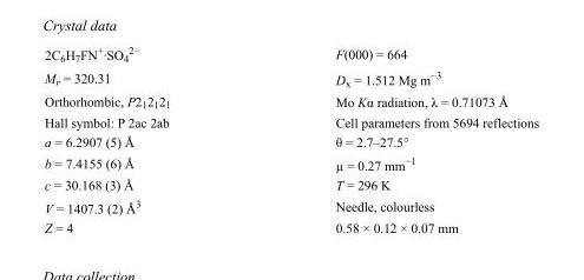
<table><tbody><tr><td>2C<sub>6</sub>H<sub>7</sub>FN<sup>+</sup>·SO<sub>4</sub> <sup>2−</sup></td><td>F(000) = 664</td></tr><tr><td>M<sub>r</sub> = 320.31</td><td>D<sub>x</sub> = 1.512 Mg m<sup>−3</sup></td></tr><tr><td>Orthorhombic, P2<sub>1</sub>2<sub>1</sub>2<sub>1</sub></td><td>Mo Kα radiation, λ = 0.71073 Å</td></tr><tr><td>Hall symbol: P 2ac 2ab</td><td>Cell parameters from 5694 reflections</td></tr><tr><td>a = 6.2907 (5) Å</td><td>θ = 2.7–27.5°</td></tr><tr><td>b = 7.4155 (6) Å</td><td>µ = 0.27 mm<sup>−1</sup></td></tr><tr><td>c = 30.168 (3) Å</td><td>T = 296 K</td></tr><tr><td>V = 1407.3 (2) Å<sup>3</sup></td><td>Needle, colourless</td></tr><tr><td>Z = 4</td><td>0.58 × 0.12 × 0.07 mm</td></tr></tbody></table>